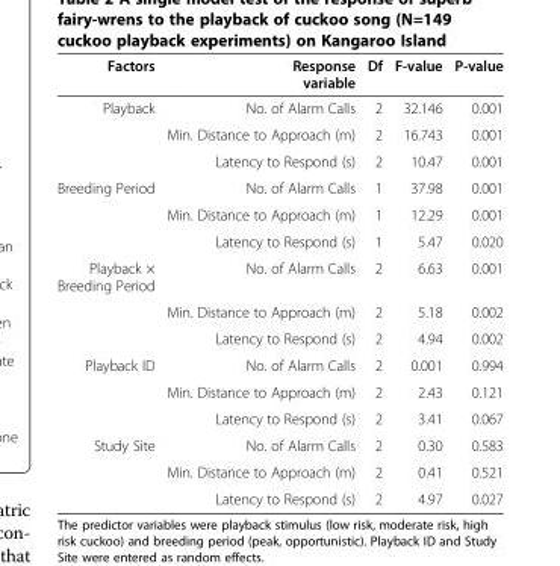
<table><thead><tr><td>Factors</td><td>Response variable</td><td>Df</td><td>F-value</td><td>P-value</td></tr></thead><tbody><tr><td rowspan="3">Playback</td><td>No. of Alarm Calls</td><td>2</td><td>32.146</td><td>0.001</td></tr><tr><td>Min. Distance to Approach (m)</td><td>2</td><td>16.743</td><td>0.001</td></tr><tr><td>Latency to Respond (s)</td><td>2</td><td>10.47</td><td>0.001</td></tr><tr><td rowspan="3">Breeding Period</td><td>No. of Alarm Calls</td><td>1</td><td>37.98</td><td>0.001</td></tr><tr><td>Min. Distance to Approach (m)</td><td>1</td><td>12.29</td><td>0.001</td></tr><tr><td>Latency to Respond (s)</td><td>1</td><td>5.47</td><td>0.020</td></tr><tr><td rowspan="3">Playback × Breeding Period</td><td>No. of Alarm Calls</td><td>2</td><td>6.63</td><td>0.001</td></tr><tr><td>Min. Distance to Approach (m)</td><td>2</td><td>5.18</td><td>0.002</td></tr><tr><td>Latency to Respond (s)</td><td>2</td><td>4.94</td><td>0.002</td></tr><tr><td rowspan="3">Playback ID</td><td>No. of Alarm Calls</td><td>2</td><td>0.001</td><td>0.994</td></tr><tr><td>Min. Distance to Approach (m)</td><td>2</td><td>2.43</td><td>0.121</td></tr><tr><td>Latency to Respond (s)</td><td>2</td><td>3.41</td><td>0.067</td></tr><tr><td rowspan="3">Study Site</td><td>No. of Alarm Calls</td><td>2</td><td>0.30</td><td>0.583</td></tr><tr><td>Min. Distance to Approach (m)</td><td>2</td><td>0.41</td><td>0.521</td></tr><tr><td>Latency to Respond (s)</td><td>2</td><td>4.97</td><td>0.027</td></tr></tbody></table>